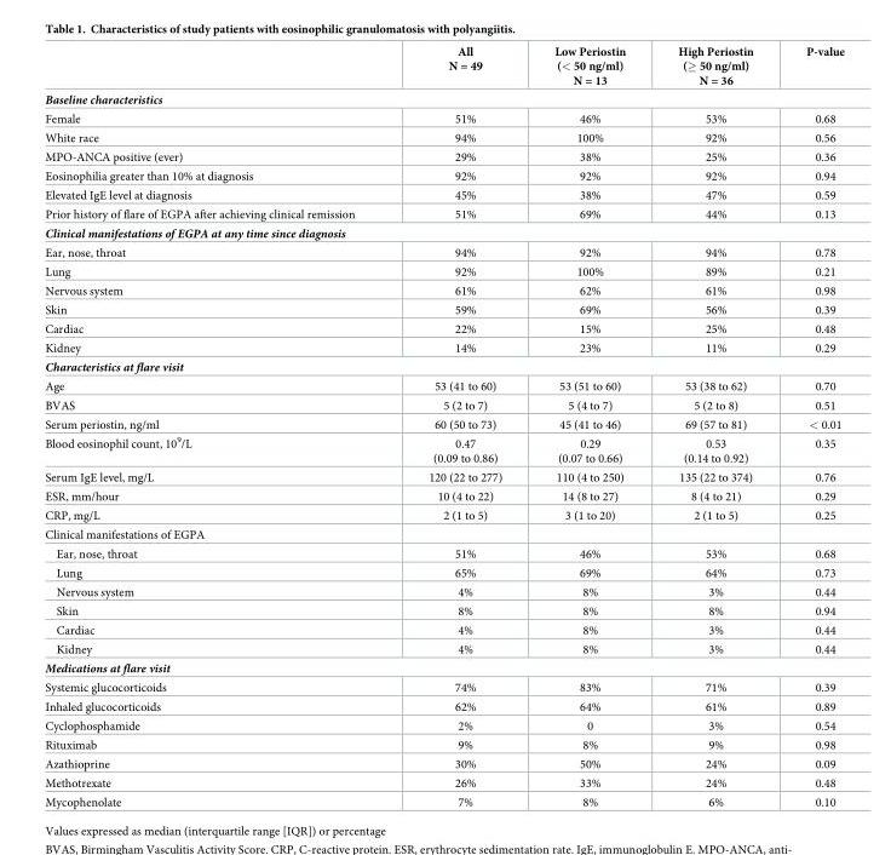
<table><thead><tr><td></td><td>All N = 49</td><td>Low Periostin (&lt; 50 ng/ml) N = 13</td><td>High Periostin (≥ 50 ng/ml) N = 36</td><td>P-value</td></tr></thead><tbody><tr><td colspan="5">Baseline characteristics</td></tr><tr><td>Female</td><td>51%</td><td>46%</td><td>53%</td><td>0.68</td></tr><tr><td>White race</td><td>94%</td><td>100%</td><td>92%</td><td>0.56</td></tr><tr><td>MPO-ANCA positive (ever)</td><td>29%</td><td>38%</td><td>25%</td><td>0.36</td></tr><tr><td>Eosinophilia greater than 10% at diagnosis</td><td>92%</td><td>92%</td><td>92%</td><td>0.94</td></tr><tr><td>Elevated IgE level at diagnosis</td><td>45%</td><td>38%</td><td>47%</td><td>0.59</td></tr><tr><td>Prior history of flare of EGPA after achieving clinical remission</td><td>51%</td><td>69%</td><td>44%</td><td>0.13</td></tr><tr><td colspan="5">Clinical manifestations of EGPA at any time since diagnosis</td></tr><tr><td>Ear, nose, throat</td><td>94%</td><td>92%</td><td>94%</td><td>0.78</td></tr><tr><td>Lung</td><td>92%</td><td>100%</td><td>89%</td><td>0.21</td></tr><tr><td>Nervous system</td><td>61%</td><td>62%</td><td>61%</td><td>0.98</td></tr><tr><td>Skin</td><td>59%</td><td>69%</td><td>56%</td><td>0.39</td></tr><tr><td>Cardiac</td><td>22%</td><td>15%</td><td>25%</td><td>0.48</td></tr><tr><td>Kidney</td><td>14%</td><td>23%</td><td>11%</td><td>0.29</td></tr><tr><td colspan="5">Characteristics at flare visit</td></tr><tr><td>Age</td><td>53 (41 to 60)</td><td>53 (51 to 60)</td><td>53 (38 to 62)</td><td>0.70</td></tr><tr><td>BVAS</td><td>5 (2 to 7)</td><td>5 (4 to 7)</td><td>5 (2 to 8)</td><td>0.51</td></tr><tr><td>Serum periostin, ng/ml</td><td>60 (50 to 73)</td><td>45 (41 to 46)</td><td>69 (57 to 81)</td><td>&lt; 0.01</td></tr><tr><td>Blood eosinophil count, 10<sup>9</sup>/L</td><td>0.47 (0.09 to 0.86)</td><td>0.29 (0.07 to 0.66)</td><td>0.53 (0.14 to 0.92)</td><td>0.35</td></tr><tr><td>Serum IgE level, mg/L</td><td>120 (22 to 277)</td><td>110 (4 to 250)</td><td>135 (22 to 374)</td><td>0.76</td></tr><tr><td>ESR, mm/hour</td><td>10 (4 to 22)</td><td>14 (8 to 27)</td><td>8 (4 to 21)</td><td>0.29</td></tr><tr><td>CRP, mg/L</td><td>2 (1 to 5)</td><td>3 (1 to 20)</td><td>2 (1 to 5)</td><td>0.25</td></tr><tr><td colspan="5">Clinical manifestations of EGPA</td></tr><tr><td>Ear, nose, throat</td><td>51%</td><td>46%</td><td>53%</td><td>0.68</td></tr><tr><td>Lung</td><td>65%</td><td>69%</td><td>64%</td><td>0.73</td></tr><tr><td>Nervous system</td><td>4%</td><td>8%</td><td>3%</td><td>0.44</td></tr><tr><td>Skin</td><td>8%</td><td>8%</td><td>8%</td><td>0.94</td></tr><tr><td>Cardiac</td><td>4%</td><td>8%</td><td>3%</td><td>0.44</td></tr><tr><td>Kidney</td><td>4%</td><td>8%</td><td>3%</td><td>0.44</td></tr><tr><td colspan="5">Medications at flare visit</td></tr><tr><td>Systemic glucocorticoids</td><td>74%</td><td>83%</td><td>71%</td><td>0.39</td></tr><tr><td>Inhaled glucocorticoids</td><td>62%</td><td>64%</td><td>61%</td><td>0.89</td></tr><tr><td>Cyclophosphamide</td><td>2%</td><td>0</td><td>3%</td><td>0.54</td></tr><tr><td>Rituximab</td><td>9%</td><td>8%</td><td>9%</td><td>0.98</td></tr><tr><td>Azathioprine</td><td>30%</td><td>50%</td><td>24%</td><td>0.09</td></tr><tr><td>Methotrexate</td><td>26%</td><td>33%</td><td>24%</td><td>0.48</td></tr><tr><td>Mycophenolate</td><td>7%</td><td>8%</td><td>6%</td><td>0.10</td></tr></tbody></table>